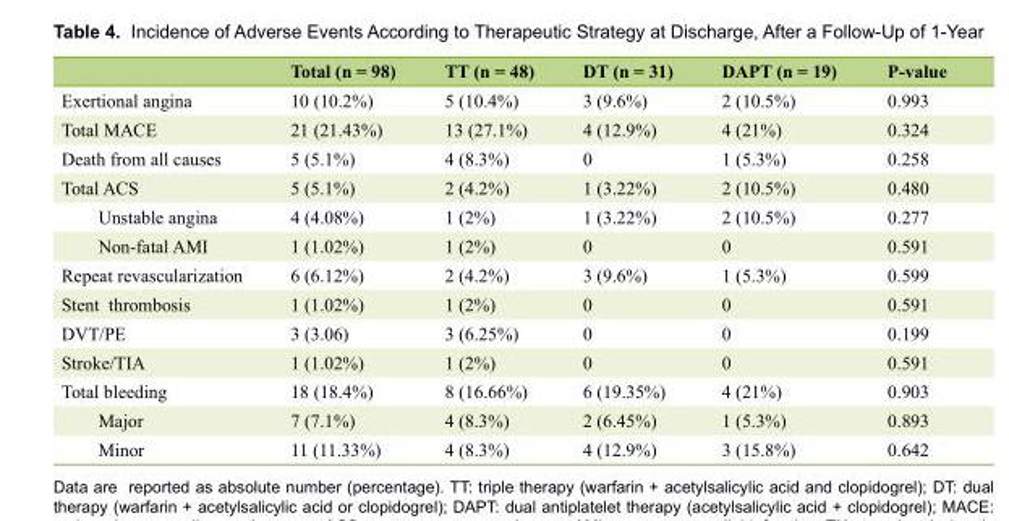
<table><thead><tr><td></td><td>Total (n = 98)</td><td>TT (n = 48)</td><td>DT (n = 31)</td><td>DAPT (n = 19)</td><td>P-value</td></tr></thead><tbody><tr><td>Exertional angina</td><td>10 (10.2%)</td><td>5 (10.4%)</td><td>3 (9.6%)</td><td>2 (10.5%)</td><td>0.993</td></tr><tr><td>Total MACE</td><td>21 (21.43%)</td><td>13 (27.1%)</td><td>4 (12.9%)</td><td>4 (21%)</td><td>0.324</td></tr><tr><td>Death from all causes</td><td>5 (5.1%)</td><td>4 (8.3%)</td><td>0</td><td>1 (5.3%)</td><td>0.258</td></tr><tr><td>Total ACS</td><td>5 (5.1%)</td><td>2 (4.2%)</td><td>1 (3.22%)</td><td>2 (10.5%)</td><td>0.480</td></tr><tr><td>Unstable angina</td><td>4 (4.08%)</td><td>1 (2%)</td><td>1 (3.22%)</td><td>2 (10.5%)</td><td>0.277</td></tr><tr><td>Non-fatal AMI</td><td>1 (1.02%)</td><td>1 (2%)</td><td>0</td><td>0</td><td>0.591</td></tr><tr><td>Repeat revascularization</td><td>6 (6.12%)</td><td>2 (4.2%)</td><td>3 (9.6%)</td><td>1 (5.3%)</td><td>0.599</td></tr><tr><td>Stent thrombosis</td><td>1 (1.02%)</td><td>1 (2%)</td><td>0</td><td>0</td><td>0.591</td></tr><tr><td>DVT/PE</td><td>3 (3.06)</td><td>3 (6.25%)</td><td>0</td><td>0</td><td>0.199</td></tr><tr><td>Stroke/TIA</td><td>1 (1.02%)</td><td>1 (2%)</td><td>0</td><td>0</td><td>0.591</td></tr><tr><td>Total bleeding</td><td>18 (18.4%)</td><td>8 (16.66%)</td><td>6 (19.35%)</td><td>4 (21%)</td><td>0.903</td></tr><tr><td>Major</td><td>7 (7.1%)</td><td>4 (8.3%)</td><td>2 (6.45%)</td><td>1 (5.3%)</td><td>0.893</td></tr><tr><td>Minor</td><td>11 (11.33%)</td><td>4 (8.3%)</td><td>4 (12.9%)</td><td>3 (15.8%)</td><td>0.642</td></tr></tbody></table>